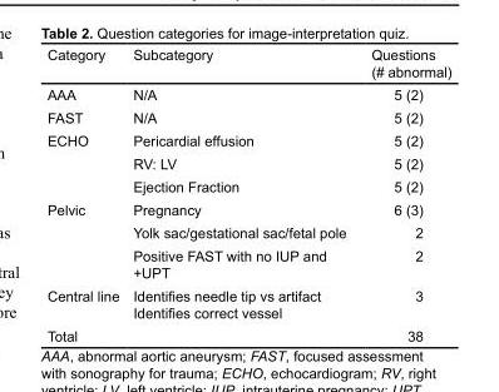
<table><thead><tr><td>Category</td><td>Subcategory</td><td>Questions (# abnormal)</td></tr></thead><tbody><tr><td>AAA</td><td>N/A</td><td>5 (2)</td></tr><tr><td>FAST</td><td>N/A</td><td>5 (2)</td></tr><tr><td rowspan="3">ECHO</td><td>Pericardial effusion</td><td>5 (2)</td></tr><tr><td>RV: LV</td><td>5 (2)</td></tr><tr><td>Ejection Fraction</td><td>5 (2)</td></tr><tr><td rowspan="3">Pelvic</td><td>Pregnancy</td><td>6 (3)</td></tr><tr><td>Yolk sac/gestational sac/fetal pole</td><td>2</td></tr><tr><td>Positive FAST with no IUP and +UPT</td><td>2</td></tr><tr><td>Central line</td><td>Identifies needle tip vs artifact Identifies correct vessel</td><td>3</td></tr><tr><td>Total</td><td></td><td>38</td></tr></tbody></table>